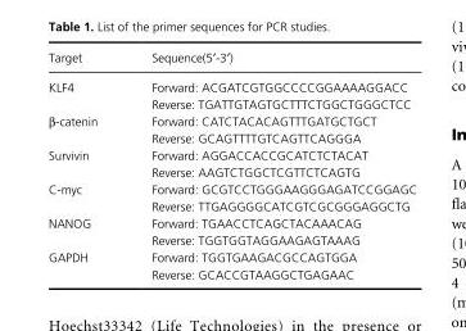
<table><thead><tr><td>Target</td><td>Sequence(5′- 3′)</td></tr></thead><tbody><tr><td rowspan="2">KLF4</td><td>Forward: ACGATCGTGGCCCCGGAAAAGGACC</td></tr><tr><td>Reverse: TGATTGTAGTGCTTTCTGGCTGGGCTCC</td></tr><tr><td rowspan="2">β- catenin</td><td>Forward: CATCTACACAGTTTGATGCTGCT</td></tr><tr><td>Reverse: GCAGTTTTGTCAGTTCAGGGA</td></tr><tr><td rowspan="2">Survivin</td><td>Forward: AGGACCACCGCATCTCTACAT</td></tr><tr><td>Reverse: AAGTCTGGCTCGTTCTCAGTG</td></tr><tr><td rowspan="2">C- myc</td><td>Forward: GCGTCCTGGGAAGGGAGATCCGGAGC</td></tr><tr><td>Reverse: TTGAGGGGCATCGTCGCGGGAGGCTG</td></tr><tr><td rowspan="2">NANOG</td><td>Forward: TGAACCTCAGCTACAAACAG</td></tr><tr><td>Reverse: TGGTGGTAGGAAGAGTAAAG</td></tr><tr><td rowspan="2">GAPDH</td><td>Forward: TGGTGAAGACGCCAGTGGA</td></tr><tr><td>Reverse: GCACCGTAAGGCTGAGAAC</td></tr></tbody></table>